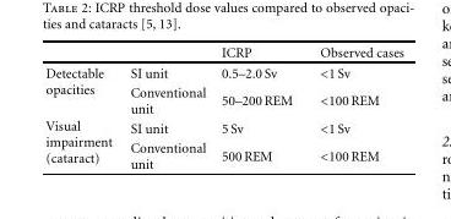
<table><thead><tr><td></td><td></td><td>ICRP</td><td>Observed cases</td></tr></thead><tbody><tr><td rowspan="2">Detectable opacities</td><td>SI unit</td><td>0.5–2.0 Sv</td><td>&lt;1 Sv</td></tr><tr><td>Conventional unit</td><td>50–200 REM</td><td>&lt;100 REM</td></tr><tr><td rowspan="2">Visual impairment (cataract)</td><td>SI unit</td><td>5 Sv</td><td>&lt;1 Sv</td></tr><tr><td>Conventional unit</td><td>500 REM</td><td>&lt;100 REM</td></tr></tbody></table>